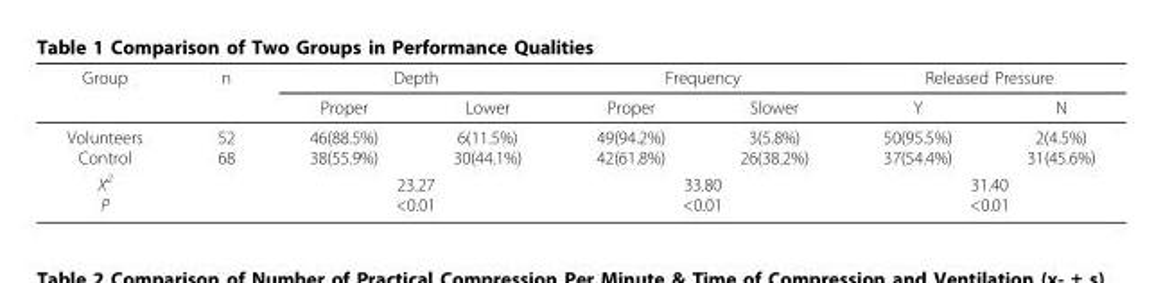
<table><thead><tr><td rowspan="2">Group</td><td rowspan="2">n</td><td colspan="2">Depth</td><td colspan="2">Frequency</td><td colspan="2">Released Pressure</td></tr><tr><td>Proper</td><td>Lower</td><td>Proper</td><td>Slower</td><td>Y</td><td>N</td></tr></thead><tbody><tr><td>Volunteers Control</td><td>52 68</td><td>46(88.5%) 38(55.9%)</td><td>6(11.5%) 30(44.1%)</td><td>49(94.2%) 42(61.8%)</td><td>3(5.8%) 26(38.2%)</td><td>50(95.5%) 37(54.4%)</td><td>2(4.5%) 31(45.6%)</td></tr><tr><td>X<sup>2</sup> P</td><td></td><td colspan="2">23.27 &lt;0.01</td><td colspan="2">33.80 &lt;0.01</td><td colspan="2">31.40 &lt;0.01</td></tr></tbody></table>